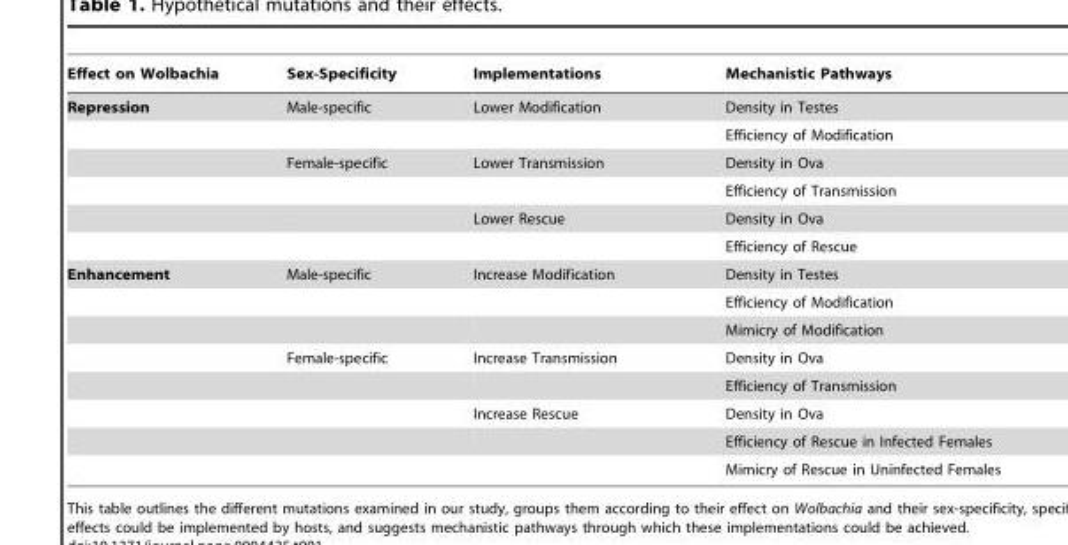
<table><thead><tr><td>Effect on Wolbachia</td><td>Sex-Specificity</td><td>Implementations</td><td>Mechanistic Pathways</td></tr></thead><tbody><tr><td rowspan="6">Repression</td><td>Male-specific</td><td>Lower Modification</td><td>Density in Testes</td></tr><tr><td></td><td></td><td>Efficiency of Modification</td></tr><tr><td>Female-specific</td><td>Lower Transmission</td><td>Density in Ova</td></tr><tr><td></td><td></td><td>Efficiency of Transmission</td></tr><tr><td></td><td>Lower Rescue</td><td>Density in Ova</td></tr><tr><td></td><td></td><td>Efficiency of Rescue</td></tr><tr><td rowspan="8">Enhancement</td><td>Male-specific</td><td>Increase Modification</td><td>Density in Testes</td></tr><tr><td></td><td></td><td>Efficiency of Modification</td></tr><tr><td></td><td></td><td>Mimicry of Modification</td></tr><tr><td>Female-specific</td><td>Increase Transmission</td><td>Density in Ova</td></tr><tr><td></td><td></td><td>Efficiency of Transmission</td></tr><tr><td></td><td>Increase Rescue</td><td>Density in Ova</td></tr><tr><td></td><td></td><td>Efficiency of Rescue in Infected Females</td></tr><tr><td></td><td></td><td>Mimicry of Rescue in Uninfected Females</td></tr></tbody></table>